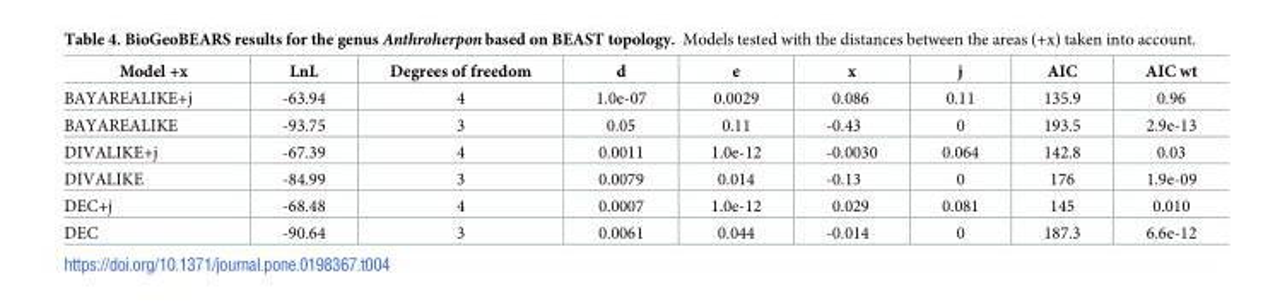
<table><thead><tr><td>Model +x</td><td>LnL</td><td>Degrees of freedom</td><td>d</td><td>e</td><td>x</td><td>j</td><td>AIC</td><td>AIC wt</td></tr></thead><tbody><tr><td>BAYAREALIKE+j</td><td>-63.94</td><td>4</td><td>1.0e-07</td><td>0.0029</td><td>0.086</td><td>0.11</td><td>135.9</td><td>0.96</td></tr><tr><td>BAYAREALIKE</td><td>-93.75</td><td>3</td><td>0.05</td><td>0.11</td><td>-0.43</td><td>0</td><td>193.5</td><td>2.9e-13</td></tr><tr><td>DIVALIKE+j</td><td>-67.39</td><td>4</td><td>0.0011</td><td>1.0e-12</td><td>-0.0030</td><td>0.064</td><td>142.8</td><td>0.03</td></tr><tr><td>DIVALIKE</td><td>-84.99</td><td>3</td><td>0.0079</td><td>0.014</td><td>-0.13</td><td>0</td><td>176</td><td>1.9e-09</td></tr><tr><td>DEC+j</td><td>-68.48</td><td>4</td><td>0.0007</td><td>1.0e-12</td><td>0.029</td><td>0.081</td><td>145</td><td>0.010</td></tr><tr><td>DEC</td><td>-90.64</td><td>3</td><td>0.0061</td><td>0.044</td><td>-0.014</td><td>0</td><td>187.3</td><td>6.6e-12</td></tr></tbody></table>